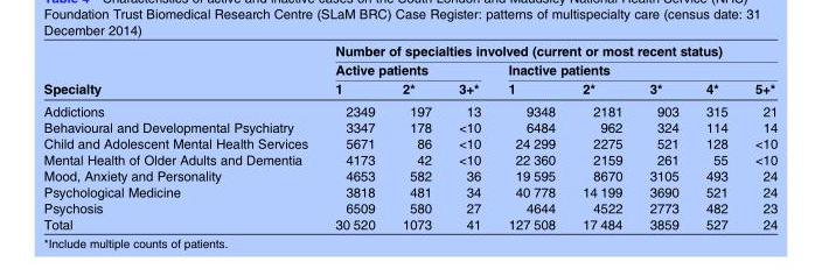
<table><thead><tr><td rowspan="3">Specialty</td><td colspan="8">Number of specialties involved (current or most recent status)</td></tr><tr><td colspan="3">Active patients</td><td colspan="5">Inactive patients</td></tr><tr><td>1</td><td>2*</td><td>3+*</td><td>1</td><td>2*</td><td>3*</td><td>4*</td><td>5+*</td></tr></thead><tbody><tr><td>Addictions</td><td>2349</td><td>197</td><td>13</td><td>9348</td><td>2181</td><td>903</td><td>315</td><td>21</td></tr><tr><td>Behavioural and Developmental Psychiatry</td><td>3347</td><td>178</td><td>&lt;10</td><td>6484</td><td>962</td><td>324</td><td>114</td><td>14</td></tr><tr><td>Child and Adolescent Mental Health Services</td><td>5671</td><td>86</td><td>&lt;10</td><td>24 299</td><td>2275</td><td>521</td><td>128</td><td>&lt;10</td></tr><tr><td>Mental Health of Older Adults and Dementia</td><td>4173</td><td>42</td><td>&lt;10</td><td>22 360</td><td>2159</td><td>261</td><td>55</td><td>&lt;10</td></tr><tr><td>Mood, Anxiety and Personality</td><td>4653</td><td>582</td><td>36</td><td>19 595</td><td>8670</td><td>3105</td><td>493</td><td>24</td></tr><tr><td>Psychological Medicine</td><td>3818</td><td>481</td><td>34</td><td>40 778</td><td>14 199</td><td>3690</td><td>521</td><td>24</td></tr><tr><td>Psychosis</td><td>6509</td><td>580</td><td>27</td><td>4644</td><td>4522</td><td>2773</td><td>482</td><td>23</td></tr><tr><td>Total</td><td>30 520</td><td>1073</td><td>41</td><td>127 508</td><td>17 484</td><td>3859</td><td>527</td><td>24</td></tr></tbody></table>